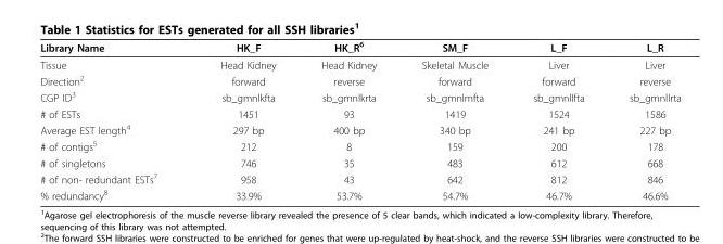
<table><thead><tr><td>Library Name</td><td>HK_F</td><td>HK_R<sup>6</sup></td><td>SM_F</td><td>L_F</td><td>L_R</td></tr></thead><tbody><tr><td>Tissue</td><td>Head Kidney</td><td>Head Kidney</td><td>Skeletal Muscle</td><td>Liver</td><td>Liver</td></tr><tr><td>Direction<sup>2</sup></td><td>forward</td><td>reverse</td><td>forward</td><td>forward</td><td>reverse</td></tr><tr><td>CGP ID<sup>3</sup></td><td>sb_gmnlkfta</td><td>sb_gmnlkrta</td><td>sb_gmnlmfta</td><td>sb_gmnllfta</td><td>sb_gmnllrta</td></tr><tr><td># of ESTs</td><td>1451</td><td>93</td><td>1419</td><td>1524</td><td>1586</td></tr><tr><td>Average EST length<sup>4</sup></td><td>297 bp</td><td>400 bp</td><td>340 bp</td><td>241 bp</td><td>227 bp</td></tr><tr><td># of contigs<sup>5</sup></td><td>212</td><td>8</td><td>159</td><td>200</td><td>178</td></tr><tr><td># of singletons</td><td>746</td><td>35</td><td>483</td><td>612</td><td>668</td></tr><tr><td># of non- redundant ESTs<sup>7</sup></td><td>958</td><td>43</td><td>642</td><td>812</td><td>846</td></tr><tr><td>% redundancy<sup>8</sup></td><td>33.9%</td><td>53.7%</td><td>54.7%</td><td>46.7%</td><td>46.6%</td></tr></tbody></table>